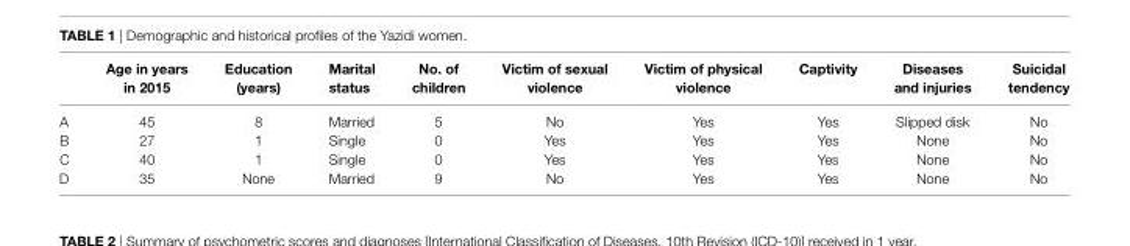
<table><thead><tr><td></td><td>age in years in 2015</td><td>education (years)</td><td>Marital status</td><td>No. of children</td><td>Victim of sexual violence</td><td>Victim of physical violence</td><td>Captivity</td><td>Diseases and injuries</td><td>suicidal tendency</td></tr></thead><tbody><tr><td>A</td><td>45</td><td>8</td><td>Married</td><td>5</td><td>No</td><td>Yes</td><td>Yes</td><td>Slipped disk</td><td>No</td></tr><tr><td>B</td><td>27</td><td>1</td><td>Single</td><td>0</td><td>Yes</td><td>Yes</td><td>Yes</td><td>None</td><td>No</td></tr><tr><td>C</td><td>40</td><td>1</td><td>Single</td><td>0</td><td>Yes</td><td>Yes</td><td>Yes</td><td>None</td><td>No</td></tr><tr><td>D</td><td>35</td><td>None</td><td>Married</td><td>9</td><td>No</td><td>Yes</td><td>Yes</td><td>None</td><td>No</td></tr></tbody></table>